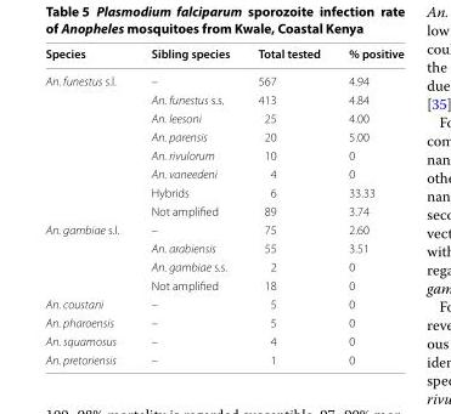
<table><thead><tr><td>Species</td><td>Sibling species</td><td>Total tested</td><td>% positive</td></tr></thead><tbody><tr><td rowspan="8">An. funestus s.l.</td><td>–</td><td>567</td><td>4.94</td></tr><tr><td>An. funestus s.s.</td><td>413</td><td>4.84</td></tr><tr><td>An. leesoni</td><td>25</td><td>4.00</td></tr><tr><td>An. parensis</td><td>20</td><td>5.00</td></tr><tr><td>An. rivulorum</td><td>10</td><td>0</td></tr><tr><td>An. vaneedeni</td><td>4</td><td>0</td></tr><tr><td>Hybrids</td><td>6</td><td>33.33</td></tr><tr><td>Not amplified</td><td>89</td><td>3.74</td></tr><tr><td rowspan="4">An. gambiae s.l.</td><td>–</td><td>75</td><td>2.60</td></tr><tr><td>An. arabiensis</td><td>55</td><td>3.51</td></tr><tr><td>An. gambiae s.s.</td><td>2</td><td>0</td></tr><tr><td>Not amplified</td><td>18</td><td>0</td></tr><tr><td>An. coustani</td><td>–</td><td>5</td><td>0</td></tr><tr><td>An. pharoensis</td><td>–</td><td>5</td><td>0</td></tr><tr><td>An. squamosus</td><td>–</td><td>4</td><td>0</td></tr><tr><td>An. pretoriensis</td><td>–</td><td>1</td><td>0</td></tr></tbody></table>